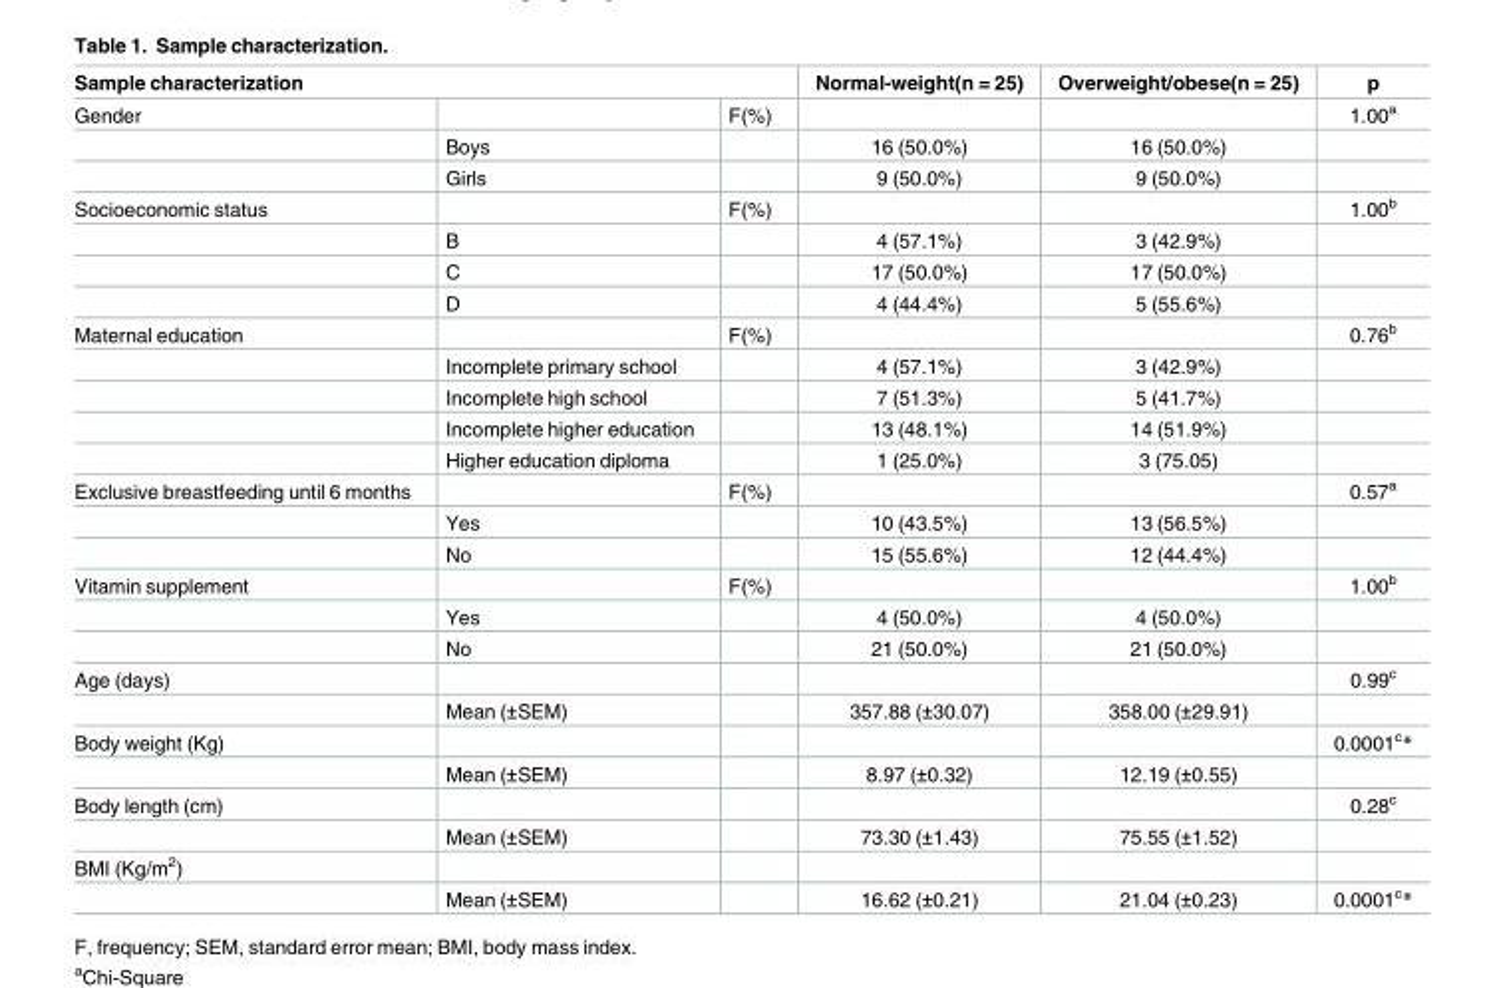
<table><thead><tr><td colspan="3">Sample characterization</td><td rowspan="2">Normal-weight(n = 25)</td><td rowspan="2">Overweight/obese(n = 25)</td><td rowspan="2">p 1.00<sup>a</sup></td></tr><tr><td>Gender</td><td></td><td>F(%)</td></tr></thead><tbody><tr><td></td><td>Boys</td><td></td><td>16 (50.0%)</td><td>16 (50.0%)</td><td></td></tr><tr><td></td><td>Girls</td><td></td><td>9 (50.0%)</td><td>9 (50.0%)</td><td></td></tr><tr><td rowspan="4">Socioeconomic status</td><td></td><td>F(%)</td><td></td><td></td><td>1.00<sup>b</sup></td></tr><tr><td>B</td><td></td><td>4 (57.1%)</td><td>3 (42.9%)</td><td></td></tr><tr><td>C</td><td></td><td>17 (50.0%)</td><td>17 (50.0%)</td><td></td></tr><tr><td>D</td><td></td><td>4 (44.4%)</td><td>5 (55.6%)</td><td></td></tr><tr><td rowspan="5">Maternal education</td><td></td><td>F(%)</td><td></td><td></td><td>0.76<sup>b</sup></td></tr><tr><td>Incomplete primary school</td><td></td><td>4 (57.1%)</td><td>3 (42.9%)</td><td></td></tr><tr><td>Incomplete high school</td><td></td><td>7 (51.3%)</td><td>5 (41.7%)</td><td></td></tr><tr><td>Incomplete higher education</td><td></td><td>13 (48.1%)</td><td>14 (51.9%)</td><td></td></tr><tr><td>Higher education diploma</td><td></td><td>1 (25.0%)</td><td>3 (75.05)</td><td></td></tr><tr><td rowspan="3">Exclusive breastfeeding until 6 months</td><td></td><td>F(%)</td><td></td><td></td><td>0.57<sup>a</sup></td></tr><tr><td>Yes</td><td></td><td>10 (43.5%)</td><td>13 (56.5%)</td><td></td></tr><tr><td>No</td><td></td><td>15 (55.6%)</td><td>12 (44.4%)</td><td></td></tr><tr><td rowspan="3">Vitamin supplement</td><td></td><td>F(%)</td><td></td><td></td><td>1.00<sup>b</sup></td></tr><tr><td>Yes</td><td></td><td>4 (50.0%)</td><td>4 (50.0%)</td><td></td></tr><tr><td>No</td><td></td><td>21 (50.0%)</td><td>21 (50.0%)</td><td></td></tr><tr><td rowspan="2">Age (days)</td><td></td><td></td><td></td><td></td><td>0.99<sup>c</sup></td></tr><tr><td>Mean (±SEM)</td><td></td><td>357.88 (±30.07)</td><td>358.00 (±29.91)</td><td></td></tr><tr><td rowspan="2">Body weight (Kg)</td><td></td><td></td><td></td><td></td><td>0.0001<sup>c</sup>*</td></tr><tr><td>Mean (±SEM)</td><td></td><td>8.97 (±0.32)</td><td>12.19 (±0.55)</td><td></td></tr><tr><td rowspan="2">Body length (cm)</td><td></td><td></td><td></td><td></td><td>0.28<sup>c</sup></td></tr><tr><td>Mean (±SEM)</td><td></td><td>73.30 (±1.43)</td><td>75.55 (±1.52)</td><td></td></tr><tr><td colspan="6">BMI (Kg/m<sup>2</sup>)</td></tr><tr><td></td><td>Mean (±SEM)</td><td></td><td>16.62 (±0.21)</td><td>21.04 (±0.23)</td><td>0.0001<sup>c</sup>*</td></tr></tbody></table>